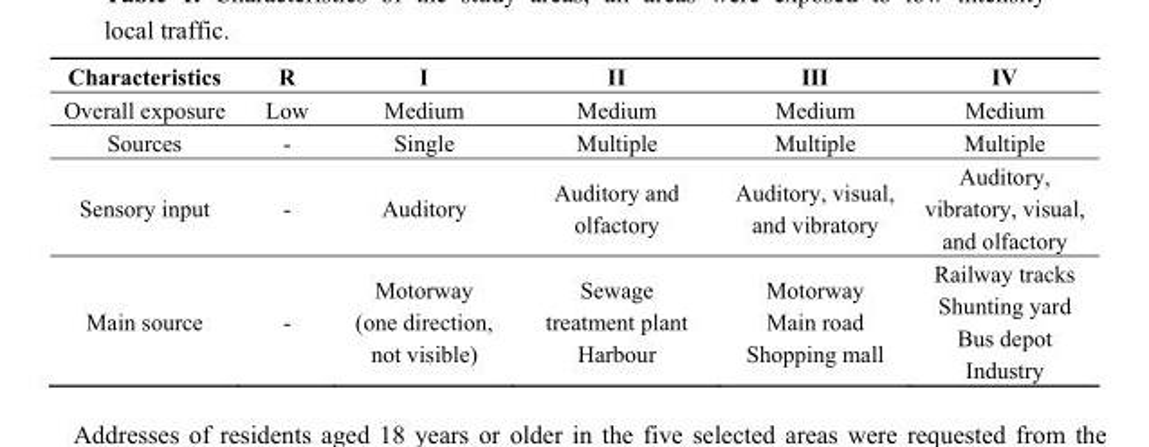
<table><thead><tr><td>Characteristics</td><td>R</td><td>I</td><td>II</td><td>III</td><td>IV</td></tr></thead><tbody><tr><td>Overall exposure</td><td>Low</td><td>Medium</td><td>Medium</td><td>Medium</td><td>Medium</td></tr><tr><td>Sources</td><td>-</td><td>Single</td><td>Multiple</td><td>Multiple</td><td>Multiple</td></tr><tr><td>Sensory input</td><td>-</td><td>Auditory</td><td>Auditory and olfactory</td><td>Auditory, visual, and vibratory</td><td>Auditory, vibratory, visual, and olfactory</td></tr><tr><td>Main source</td><td>-</td><td>Motorway (one direction, not visible)</td><td>Sewage treatment plant Harbour</td><td>Motorway Main road Shopping mall</td><td>Railway tracks Shunting yard Bus depot Industry</td></tr></tbody></table>